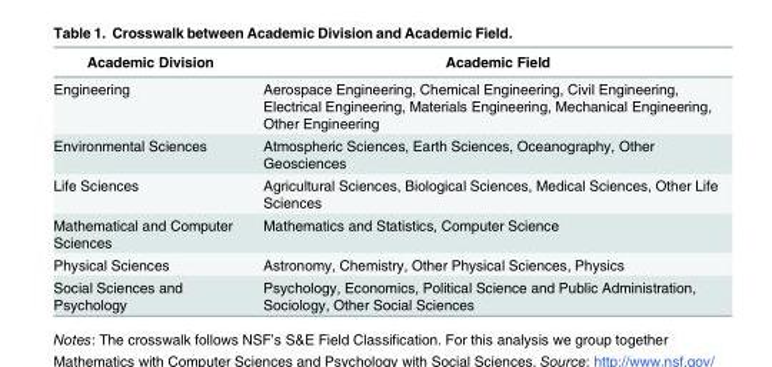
<table><thead><tr><td>Academic Division</td><td>Academic Field</td></tr></thead><tbody><tr><td>Engineering</td><td>Aerospace Engineering, Chemical Engineering, Civil Engineering, Electrical Engineering, Materials Engineering, Mechanical Engineering, Other Engineering</td></tr><tr><td>Environmental Sciences</td><td>Atmospheric Sciences, Earth Sciences, Oceanography, Other Geosciences</td></tr><tr><td>Life Sciences</td><td>Agricultural Sciences, Biological Sciences, Medical Sciences, Other Life Sciences</td></tr><tr><td>Mathematical and Computer Sciences</td><td>Mathematics and Statistics, Computer Science</td></tr><tr><td>Physical Sciences</td><td>Astronomy, Chemistry, Other Physical Sciences, Physics</td></tr><tr><td>Social Sciences and Psychology</td><td>Psychology, Economics, Political Science and Public Administration, Sociology, Other Social Sciences</td></tr></tbody></table>